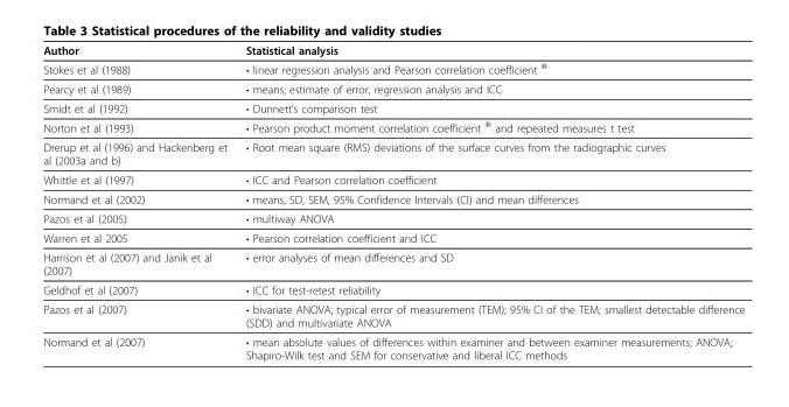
<table><thead><tr><td>Author</td><td>Statistical analysis</td></tr></thead><tbody><tr><td>Stokes et al (1988)</td><td>• linear regression analysis and Pearson correlation coefficient <sup>®</sup></td></tr><tr><td>Pearcy et al (1989)</td><td>• means; estimate of error, regression analysis and ICC</td></tr><tr><td>Smidt et al (1992)</td><td>• Dunnett’s comparison test</td></tr><tr><td>Norton et al (1993)</td><td>• Pearson product moment correlation coefficient <sup>®</sup> and repeated measures t test</td></tr><tr><td>Drerup et al (1996) and Hackenberg et al (2003a and b)</td><td>• Root mean square (RMS) deviations of the surface curves from the radiographic curves</td></tr><tr><td>Whittle et al (1997)</td><td>• ICC and Pearson correlation coefficient</td></tr><tr><td>Normand et al (2002)</td><td>• means, SD, SEM, 95% Confidence Intervals (CI) and mean differences</td></tr><tr><td>Pazos et al (2005)</td><td>• multiway ANOVA</td></tr><tr><td>Warren et al 2005</td><td>• Pearson correlation coefficient and ICC</td></tr><tr><td>Harrison et al (2007) and Janik et al (2007)</td><td>• error analyses of mean differences and SD</td></tr><tr><td>Geldhof et al (2007)</td><td>• ICC for test-retest reliability</td></tr><tr><td>Pazos et al (2007)</td><td>• bivariate ANOVA; typical error of measurement (TEM); 95% CI of the TEM; smallest detectable difference (SDD) and multivariate ANOVA</td></tr><tr><td>Normand et al (2007)</td><td>• mean absolute values of differences within examiner and between examiner measurements; ANOVA; Shapiro-Wilk test and SEM for conservative and liberal ICC methods</td></tr></tbody></table>